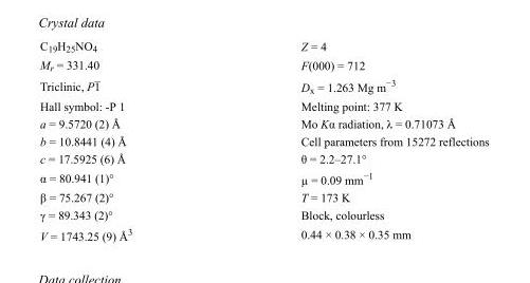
<table><tbody><tr><td>C<sub>19</sub>H<sub>25</sub>NO<sub>4</sub></td><td>Z = 4</td></tr><tr><td>M<sub>r</sub> = 331.40</td><td>F(000) = 712</td></tr><tr><td>Triclinic, P1</td><td>D<sub>x</sub> = 1.263 Mg m<sup>−3</sup></td></tr><tr><td>Hall symbol: -P 1</td><td>Melting point: 377 K</td></tr><tr><td>a = 9.5720 (2) Å</td><td>Mo Kα radiation, λ = 0.71073 Å</td></tr><tr><td>b = 10.8441 (4) Å</td><td>Cell parameters from 15272 reflections</td></tr><tr><td>c = 17.5925 (6) Å</td><td>θ = 2.2–27.1°</td></tr><tr><td>α = 80.941 (1)°</td><td>µ = 0.09 mm<sup>−1</sup></td></tr><tr><td>β = 75.267 (2)°</td><td>T = 173 K</td></tr><tr><td>γ = 89.343 (2)°</td><td>Block, colourless</td></tr><tr><td>V = 1743.25 (9) Å<sup>3</sup></td><td>0.44 × 0.38 × 0.35 mm</td></tr></tbody></table>